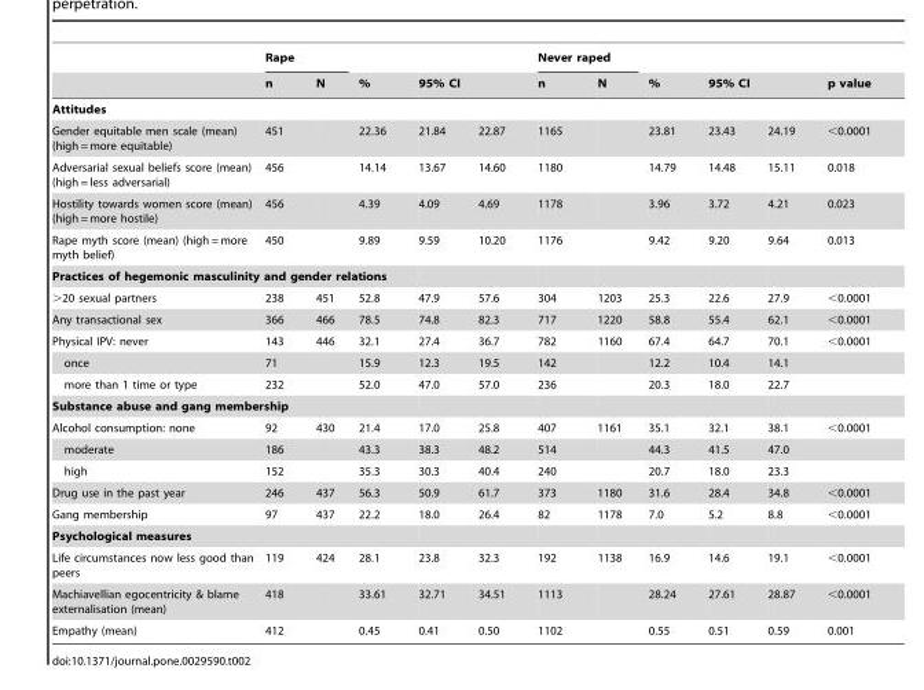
<table><thead><tr><td rowspan="2"></td><td colspan="2">Rape</td><td rowspan="2">%</td><td></td><td></td><td colspan="2">Never raped</td><td rowspan="2">%</td><td></td><td></td><td rowspan="2">p value</td></tr><tr><td>n</td><td>N</td><td colspan="2">95% CI</td><td>n</td><td>N</td><td colspan="2">95% CI</td></tr></thead><tbody><tr><td colspan="12">Attitudes</td></tr><tr><td>Gender equitable men scale (mean) (high = more equitable)</td><td>451</td><td></td><td>22.36</td><td>21.84</td><td>22.87</td><td>1165</td><td></td><td>23.81</td><td>23.43</td><td>24.19</td><td>&lt;0.0001</td></tr><tr><td>Adversarial sexual beliefs score (mean) (high = less adversarial)</td><td>456</td><td></td><td>14.14</td><td>13.67</td><td>14.60</td><td>1180</td><td></td><td>14.79</td><td>14.48</td><td>15.11</td><td>0.018</td></tr><tr><td>Hostility towards women score (mean) (high = more hostile)</td><td>456</td><td></td><td>4.39</td><td>4.09</td><td>4.69</td><td>1178</td><td></td><td>3.96</td><td>3.72</td><td>4.21</td><td>0.023</td></tr><tr><td>Rape myth score (mean) (high = more myth belief)</td><td>450</td><td></td><td>9.89</td><td>9.59</td><td>10.20</td><td>1176</td><td></td><td>9.42</td><td>9.20</td><td>9.64</td><td>0.013</td></tr><tr><td colspan="12">Practices of hegemonic masculinity and gender relations</td></tr><tr><td>&gt;20 sexual partners</td><td>238</td><td>451</td><td>52.8</td><td>47.9</td><td>57.6</td><td>304</td><td>1203</td><td>25.3</td><td>22.6</td><td>27.9</td><td>&lt;0.0001</td></tr><tr><td>Any transactional sex</td><td>366</td><td>466</td><td>78.5</td><td>74.8</td><td>82.3</td><td>717</td><td>1220</td><td>58.8</td><td>55.4</td><td>62.1</td><td>&lt;0.0001</td></tr><tr><td>Physical IPV: never</td><td>143</td><td>446</td><td>32.1</td><td>27.4</td><td>36.7</td><td>782</td><td>1160</td><td>67.4</td><td>64.7</td><td>70.1</td><td>&lt;0.0001</td></tr><tr><td>once</td><td>71</td><td></td><td>15.9</td><td>12.3</td><td>19.5</td><td>142</td><td></td><td>12.2</td><td>10.4</td><td>14.1</td><td></td></tr><tr><td>more than 1 time or type</td><td>232</td><td></td><td>52.0</td><td>47.0</td><td>57.0</td><td>236</td><td></td><td>20.3</td><td>18.0</td><td>22.7</td><td></td></tr><tr><td colspan="12">Substance abuse and gang membership</td></tr><tr><td>Alcohol consumption: none</td><td>92</td><td>430</td><td>21.4</td><td>17.0</td><td>25.8</td><td>407</td><td>1161</td><td>35.1</td><td>32.1</td><td>38.1</td><td>&lt;0.0001</td></tr><tr><td>moderate</td><td>186</td><td></td><td>43.3</td><td>38.3</td><td>48.2</td><td>514</td><td></td><td>44.3</td><td>41.5</td><td>47.0</td><td></td></tr><tr><td>high</td><td>152</td><td></td><td>35.3</td><td>30.3</td><td>40.4</td><td>240</td><td></td><td>20.7</td><td>18.0</td><td>23.3</td><td></td></tr><tr><td>Drug use in the past year</td><td>246</td><td>437</td><td>56.3</td><td>50.9</td><td>61.7</td><td>373</td><td>1180</td><td>31.6</td><td>28.4</td><td>34.8</td><td>&lt;0.0001</td></tr><tr><td>Gang membership</td><td>97</td><td>437</td><td>22.2</td><td>18.0</td><td>26.4</td><td>82</td><td>1178</td><td>7.0</td><td>5.2</td><td>8.8</td><td>&lt;0.0001</td></tr><tr><td colspan="12">Psychological measures</td></tr><tr><td>Life circumstances now less good than peers</td><td>119</td><td>424</td><td>28.1</td><td>23.8</td><td>32.3</td><td>192</td><td>1138</td><td>16.9</td><td>14.6</td><td>19.1</td><td>&lt;0.0001</td></tr><tr><td>Machiavellian egocentricity &amp; blame externalisation (mean)</td><td>418</td><td></td><td>33.61</td><td>32.71</td><td>34.51</td><td>1113</td><td></td><td>28.24</td><td>27.61</td><td>28.87</td><td>&lt;0.0001</td></tr><tr><td>Empathy (mean)</td><td>412</td><td></td><td>0.45</td><td>0.41</td><td>0.50</td><td>1102</td><td></td><td>0.55</td><td>0.51</td><td>0.59</td><td>0.001</td></tr></tbody></table>